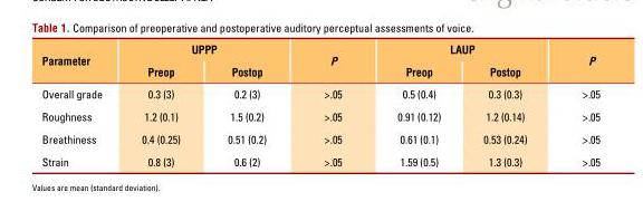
<table><thead><tr><td rowspan="2">Parameter</td><td colspan="2">UPPP</td><td rowspan="2">P</td><td colspan="2">LAUP</td><td rowspan="2">P</td></tr><tr><td>Preop</td><td>Postop</td><td>Preop</td><td>Postop</td></tr></thead><tbody><tr><td>Overall grade</td><td>0.3 (3)</td><td>0.2 (3)</td><td>&gt;.05</td><td>0.5 (0.4)</td><td>0.3 (0.3)</td><td>&gt;.05</td></tr><tr><td>Roughness</td><td>1.2 (0.1)</td><td>1.5 (0.2)</td><td>&gt;.05</td><td>0.91 (0.12)</td><td>1.2 (0.14)</td><td>&gt;.05</td></tr><tr><td>Breathiness</td><td>0.4 (0.25)</td><td>0.51 (0.2)</td><td>&gt;.05</td><td>0.61 (0.1)</td><td>0.53 (0.24)</td><td>&gt;.05</td></tr><tr><td>Strain</td><td>0.8 (3)</td><td>0.6 (2)</td><td>&gt;.05</td><td>1.59 (0.5)</td><td>1.3 (0.3)</td><td>&gt;.05</td></tr></tbody></table>